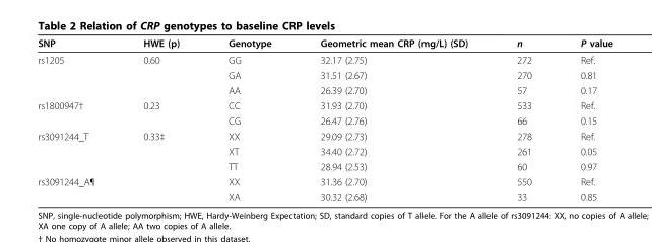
<table><thead><tr><td>SNP</td><td>HWE (p)</td><td>Genotype</td><td>Geometric mean CRP (mg/L) (SD)</td><td>n</td><td>P value</td></tr></thead><tbody><tr><td rowspan="3">rs1205</td><td>0.60</td><td>GG</td><td>32.17 (2.75)</td><td>272</td><td>Ref.</td></tr><tr><td></td><td>GA</td><td>31.51 (2.67)</td><td>270</td><td>0.81</td></tr><tr><td></td><td>AA</td><td>26.39 (2.70)</td><td>57</td><td>0.17</td></tr><tr><td rowspan="2">rs1800947†</td><td>0.23</td><td>CC</td><td>31.93 (2.70)</td><td>533</td><td>Ref.</td></tr><tr><td></td><td>CG</td><td>26.47 (2.76)</td><td>66</td><td>0.15</td></tr><tr><td rowspan="3">rs3091244_T</td><td>0.33‡</td><td>XX</td><td>29.09 (2.73)</td><td>278</td><td>Ref.</td></tr><tr><td></td><td>XT</td><td>34.40 (2.72)</td><td>261</td><td>0.05</td></tr><tr><td></td><td>TT</td><td>28.94 (2.53)</td><td>60</td><td>0.97</td></tr><tr><td rowspan="2">rs3091244_A¶</td><td></td><td>XX</td><td>31.36 (2.70)</td><td>550</td><td>Ref.</td></tr><tr><td></td><td>XA</td><td>30.32 (2.68)</td><td>33</td><td>0.85</td></tr></tbody></table>